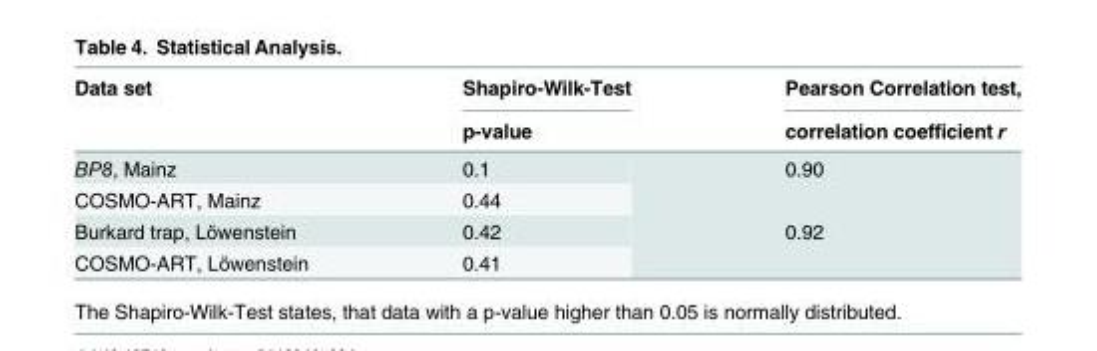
<table><thead><tr><td rowspan="2">Data set</td><td rowspan="2">Shapiro-Wilk-Test p-value</td><td rowspan="2">Pearson Correlation test, correlation coefficient r</td></tr><tr></tr></thead><tbody><tr><td>BP8, Mainz</td><td>0.1</td><td rowspan="2">0.90</td></tr><tr><td>COSMO-ART, Mainz</td><td>0.44</td></tr><tr><td>Burkard trap, Löwenstein</td><td>0.42</td><td rowspan="2">0.92</td></tr><tr><td>COSMO-ART, Löwenstein</td><td>0.41</td></tr></tbody></table>